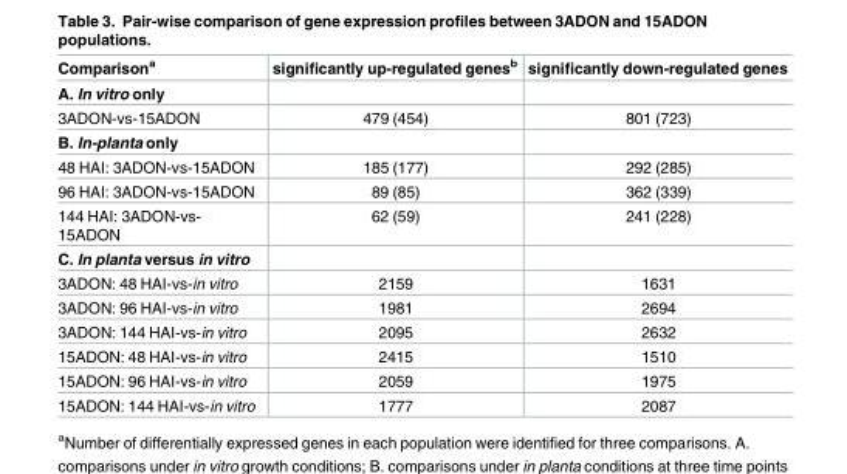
<table><thead><tr><td>Comparison<sup>a</sup></td><td>significantly up-regulated genes<sup>b</sup></td><td>significantly down-regulated genes</td></tr></thead><tbody><tr><td colspan="3">A. In vitro only</td></tr><tr><td>3ADON-vs-15ADON</td><td>479 (454)</td><td>801 (723)</td></tr><tr><td colspan="3">B. In-planta only</td></tr><tr><td>48 HAI: 3ADON-vs-15ADON</td><td>185 (177)</td><td>292 (285)</td></tr><tr><td>96 HAI: 3ADON-vs-15ADON</td><td>89 (85)</td><td>362 (339)</td></tr><tr><td>144 HAI: 3ADON-vs- 15ADON</td><td>62 (59)</td><td>241 (228)</td></tr><tr><td colspan="3">C. In planta versus in vitro</td></tr><tr><td>3ADON: 48 HAI-vs-in vitro</td><td>2159</td><td>1631</td></tr><tr><td>3ADON: 96 HAI-vs-in vitro</td><td>1981</td><td>2694</td></tr><tr><td>3ADON: 144 HAI-vs-in vitro</td><td>2095</td><td>2632</td></tr><tr><td>15ADON: 48 HAI-vs-in vitro</td><td>2415</td><td>1510</td></tr><tr><td>15ADON: 96 HAI-vs-in vitro</td><td>2059</td><td>1975</td></tr><tr><td>15ADON: 144 HAI-vs-in vitro</td><td>1777</td><td>2087</td></tr></tbody></table>